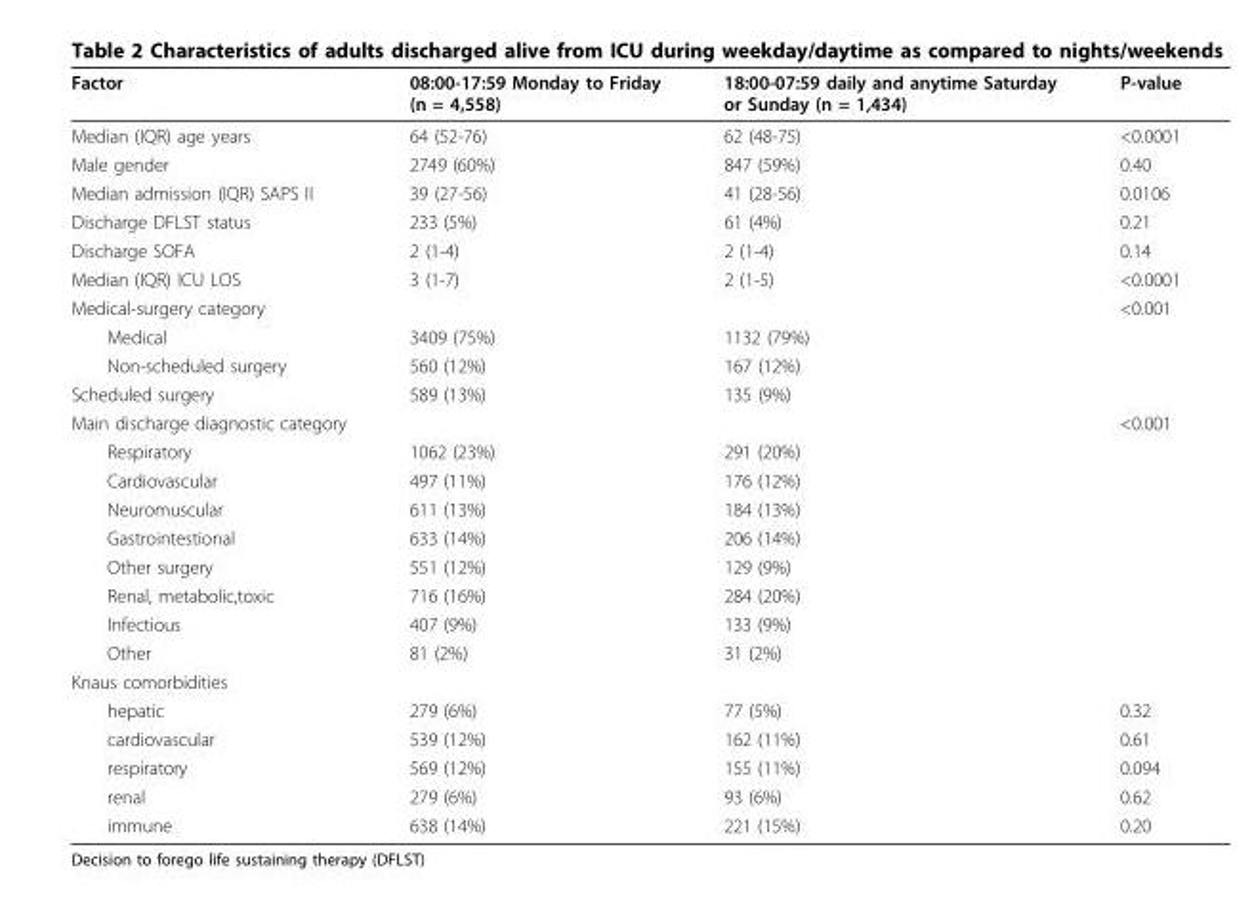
<table><thead><tr><td>Factor</td><td>08:00-17:59 Monday to Friday (n = 4,558)</td><td>18:00-07:59 daily and anytime Saturday or Sunday (n = 1,434)</td><td>P-value</td></tr></thead><tbody><tr><td>Median (IQR) age years</td><td>64 (52-76)</td><td>62 (48-75)</td><td>&lt;0.0001</td></tr><tr><td>Male gender</td><td>2749 (60%)</td><td>847 (59%)</td><td>0.40</td></tr><tr><td>Median admission (IQR) SAPS II</td><td>39 (27-56)</td><td>41 (28-56)</td><td>0.0106</td></tr><tr><td>Discharge DFLST status</td><td>233 (5%)</td><td>61 (4%)</td><td>0.21</td></tr><tr><td>Discharge SOFA</td><td>2 (1-4)</td><td>2 (1-4)</td><td>0.14</td></tr><tr><td>Median (IQR) ICU LOS</td><td>3 (1-7)</td><td>2 (1-5)</td><td>&lt;0.0001</td></tr><tr><td>Medical-surgery category</td><td></td><td></td><td>&lt;0.001</td></tr><tr><td>Medical</td><td>3409 (75%)</td><td>1132 (79%)</td><td></td></tr><tr><td>Non-scheduled surgery</td><td>560 (12%)</td><td>167 (12%)</td><td></td></tr><tr><td>Scheduled surgery</td><td>589 (13%)</td><td>135 (9%)</td><td></td></tr><tr><td>Main discharge diagnostic category</td><td></td><td></td><td>&lt;0.001</td></tr><tr><td>Respiratory</td><td>1062 (23%)</td><td>291 (20%)</td><td></td></tr><tr><td>Cardiovascular</td><td>497 (11%)</td><td>176 (12%)</td><td></td></tr><tr><td>Neuromuscular</td><td>611 (13%)</td><td>184 (13%)</td><td></td></tr><tr><td>Gastrointestional</td><td>633 (14%)</td><td>206 (14%)</td><td></td></tr><tr><td>Other surgery</td><td>551 (12%)</td><td>129 (9%)</td><td></td></tr><tr><td>Renal, metabolic,toxic</td><td>716 (16%)</td><td>284 (20%)</td><td></td></tr><tr><td>Infectious</td><td>407 (9%)</td><td>133 (9%)</td><td></td></tr><tr><td>Other</td><td>81 (2%)</td><td>31 (2%)</td><td></td></tr><tr><td colspan="4">Knaus comorbidities</td></tr><tr><td>hepatic</td><td>279 (6%)</td><td>77 (5%)</td><td>0.32</td></tr><tr><td>cardiovascular</td><td>539 (12%)</td><td>162 (11%)</td><td>0.61</td></tr><tr><td>respiratory</td><td>569 (12%)</td><td>155 (11%)</td><td>0.094</td></tr><tr><td>renal</td><td>279 (6%)</td><td>93 (6%)</td><td>0.62</td></tr><tr><td>immune</td><td>638 (14%)</td><td>221 (15%)</td><td>0.20</td></tr></tbody></table>